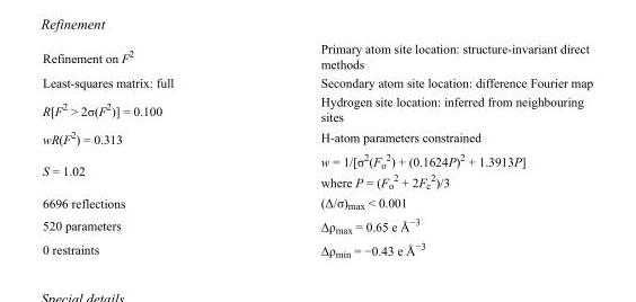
<table><tbody><tr><td>Refinement on F<sup>2</sup></td><td>Primary atom site location: structure-invariant direct methods</td></tr><tr><td>Least-squares matrix: full</td><td>Secondary atom site location: difference Fourier map</td></tr><tr><td>R[F<sup>2</sup> &gt; 2σ(F<sup>2</sup>)] = 0.100</td><td>Hydrogen site location: inferred from neighbouring sites</td></tr><tr><td>wR(F<sup>2</sup>) = 0.313</td><td>H-atom parameters constrained</td></tr><tr><td>S = 1.02</td><td>w = 1/[σ<sup>2</sup>(F<sub>o</sub> <sup>2</sup>) + (0.1624P)<sup>2</sup> + 1.3913P] where P = (F<sub>o</sub> <sup>2</sup> + 2F<sub>c</sub> <sup>2</sup>)/3</td></tr><tr><td>6696 reflections</td><td>(Δ/σ)<sub>max</sub> &lt; 0.001</td></tr><tr><td>520 parameters</td><td>Δρ<sub>max</sub> = 0.65 e Å<sup>−3</sup></td></tr><tr><td>0 restraints</td><td>Δρ<sub>min</sub> = −0.43 e Å<sup>−3</sup></td></tr></tbody></table>